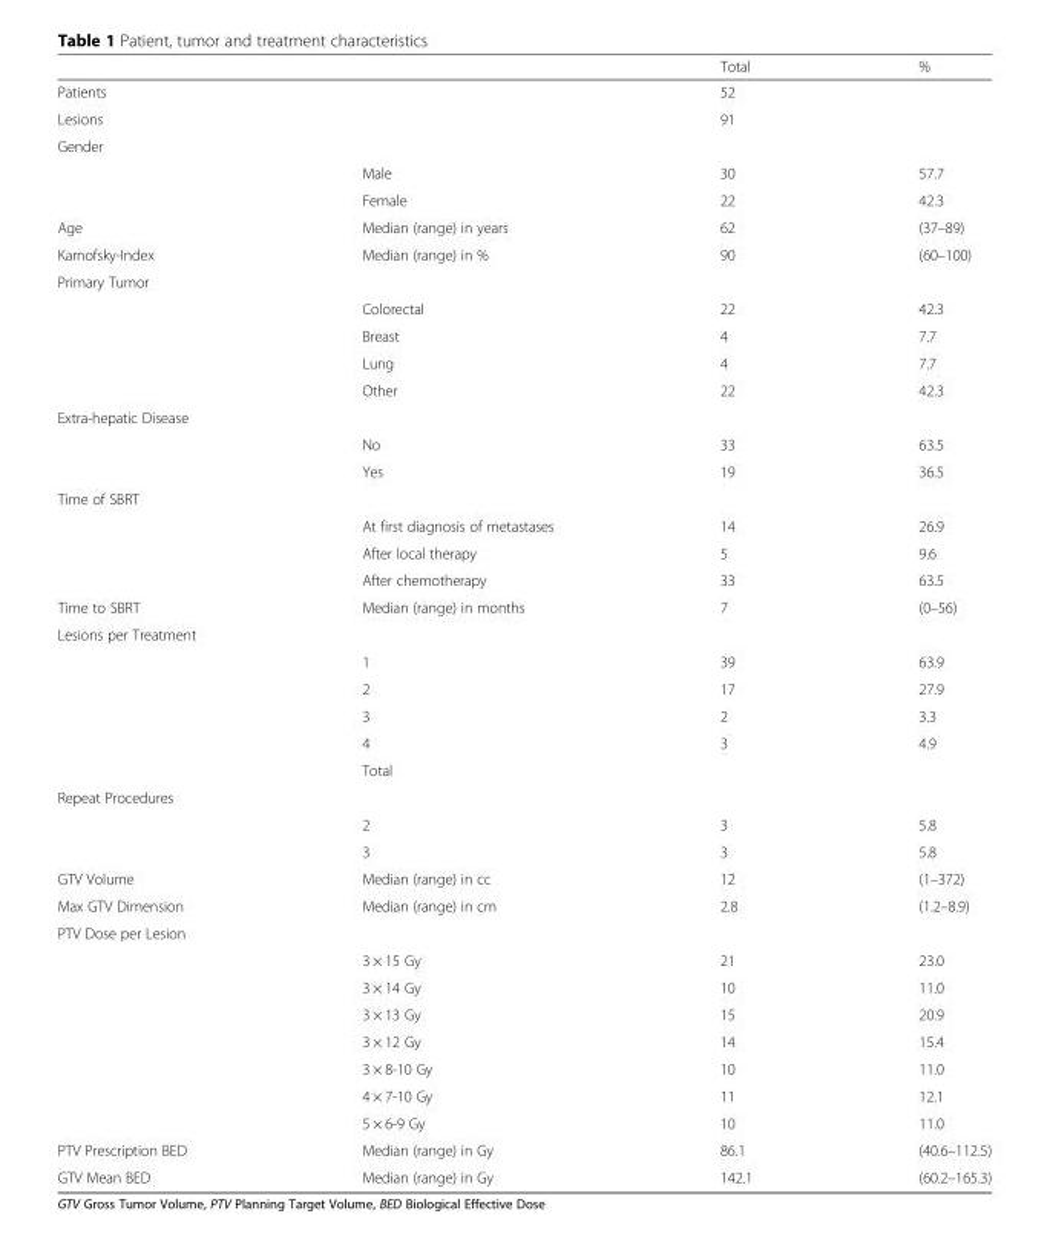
<table><thead><tr><td></td><td></td><td>Total</td><td>%</td></tr></thead><tbody><tr><td>Patients</td><td></td><td>52</td><td></td></tr><tr><td>Lesions</td><td></td><td>91</td><td></td></tr><tr><td colspan="4">Gender</td></tr><tr><td></td><td>Male</td><td>30</td><td>57.7</td></tr><tr><td></td><td>Female</td><td>22</td><td>42.3</td></tr><tr><td>Age</td><td>Median (range) in years</td><td>62</td><td>(37–89)</td></tr><tr><td>Karnofsky-Index</td><td>Median (range) in %</td><td>90</td><td>(60–100)</td></tr><tr><td colspan="4">Primary Tumor</td></tr><tr><td></td><td>Colorectal</td><td>22</td><td>42.3</td></tr><tr><td></td><td>Breast</td><td>4</td><td>7.7</td></tr><tr><td></td><td>Lung</td><td>4</td><td>7.7</td></tr><tr><td></td><td>Other</td><td>22</td><td>42.3</td></tr><tr><td colspan="4">Extra-hepatic Disease</td></tr><tr><td></td><td>No</td><td>33</td><td>63.5</td></tr><tr><td></td><td>Yes</td><td>19</td><td>36.5</td></tr><tr><td colspan="4">Time of SBRT</td></tr><tr><td></td><td>At first diagnosis of metastases</td><td>14</td><td>26.9</td></tr><tr><td></td><td>After local therapy</td><td>5</td><td>9.6</td></tr><tr><td></td><td>After chemotherapy</td><td>33</td><td>63.5</td></tr><tr><td>Time to SBRT</td><td>Median (range) in months</td><td>7</td><td>(0–56)</td></tr><tr><td colspan="4">Lesions per Treatment</td></tr><tr><td></td><td>1</td><td>39</td><td>63.9</td></tr><tr><td></td><td>2</td><td>17</td><td>27.9</td></tr><tr><td></td><td>3</td><td>2</td><td>3.3</td></tr><tr><td></td><td>4</td><td>3</td><td>4.9</td></tr><tr><td></td><td>Total</td><td></td><td></td></tr><tr><td colspan="4">Repeat Procedures</td></tr><tr><td></td><td>2</td><td>3</td><td>5.8</td></tr><tr><td></td><td>3</td><td>3</td><td>5.8</td></tr><tr><td>GTV Volume</td><td>Median (range) in cc</td><td>12</td><td>(1–372)</td></tr><tr><td>Max GTV Dimension</td><td>Median (range) in cm</td><td>2.8</td><td>(1.2–8.9)</td></tr><tr><td colspan="4">PTV Dose per Lesion</td></tr><tr><td></td><td>3 × 15 Gy</td><td>21</td><td>23.0</td></tr><tr><td></td><td>3 × 14 Gy</td><td>10</td><td>11.0</td></tr><tr><td></td><td>3 × 13 Gy</td><td>15</td><td>20.9</td></tr><tr><td></td><td>3 × 12 Gy</td><td>14</td><td>15.4</td></tr><tr><td></td><td>3 × 8-10 Gy</td><td>10</td><td>11.0</td></tr><tr><td></td><td>4 × 7-10 Gy</td><td>11</td><td>12.1</td></tr><tr><td></td><td>5 × 6-9 Gy</td><td>10</td><td>11.0</td></tr><tr><td>PTV Prescription BED</td><td>Median (range) in Gy</td><td>86.1</td><td>(40.6–112.5)</td></tr><tr><td>GTV Mean BED</td><td>Median (range) in Gy</td><td>142.1</td><td>(60.2–165.3)</td></tr></tbody></table>